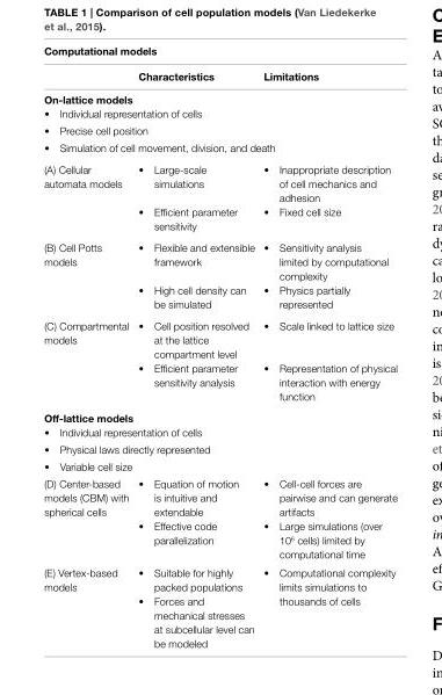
<table><thead><tr><td colspan="3">Computational models</td></tr><tr><td></td><td>Characteristics</td><td>Limitations</td></tr></thead><tbody><tr><td colspan="3">On-lattice models</td></tr><tr><td colspan="3">• Individual representation of cells</td></tr><tr><td colspan="3">• Precise cell position</td></tr><tr><td colspan="3">• Simulation of cell movement, division, and death</td></tr><tr><td rowspan="2">(A) Cellular automata models</td><td>• Large-scale simulations</td><td>• Inappropriate description of cell mechanics and adhesion</td></tr><tr><td>• Efficient parameter sensitivity</td><td>• Fixed cell size</td></tr><tr><td rowspan="2">(B) Cell Potts models</td><td>• Flexible and extensible framework</td><td>• Sensitivity analysis limited by computational complexity</td></tr><tr><td>• High cell density can be simulated</td><td>• Physics partially represented</td></tr><tr><td rowspan="2">(C) Compartmental models</td><td>• Cell position resolved at the lattice compartment level</td><td>• Scale linked to lattice size</td></tr><tr><td>• Efficient parameter sensitivity analysis</td><td>• Representation of physical interaction with energy function</td></tr><tr><td colspan="3">Off-lattice models</td></tr><tr><td colspan="3">• Individual representation of cells</td></tr><tr><td colspan="3">• Physical laws directly represented</td></tr><tr><td colspan="3">• Variable cell size</td></tr><tr><td rowspan="2">(D) Center-based models (CBM) with spherical cells</td><td>• Equation of motion is intuitive and extendable</td><td>• Cell-cell forces are pairwise and can generate artifacts</td></tr><tr><td>• Effective code parallelization</td><td>• Large simulations (over 10<sup>6</sup> cells) limited by computational time</td></tr><tr><td rowspan="2">(E) Vertex-based models</td><td>• Suitable for highly packed populations</td><td rowspan="2">• Computational complexity limits simulations to thousands of cells</td></tr><tr><td>• Forces and mechanical stresses at subcellular level can be modeled</td></tr></tbody></table>